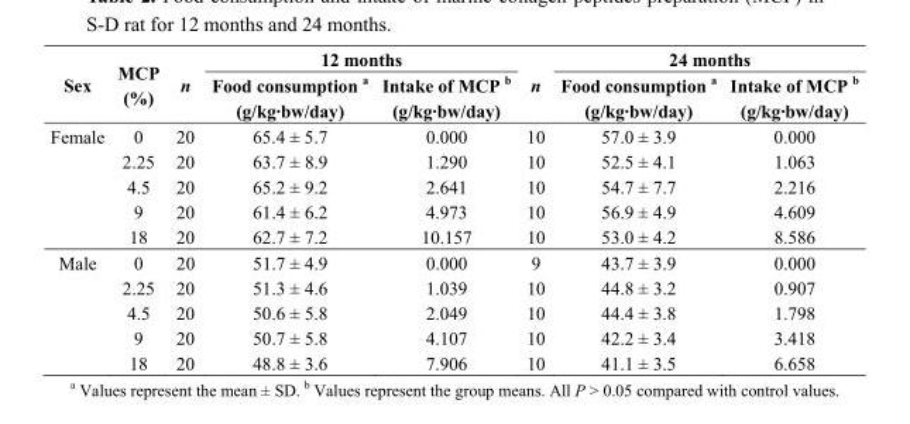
<table><thead><tr><td rowspan="2">Sex</td><td rowspan="2">MCP (%)</td><td rowspan="2">n</td><td colspan="2">12 months</td><td rowspan="2">n</td><td colspan="2">24 months</td></tr><tr><td>Food consumption <sup>a</sup> (g/kg·bw/day)</td><td>Intake of MCP <sup>b</sup> (g/kg·bw/day)</td><td>Food consumption <sup>a</sup> (g/kg·bw/day)</td><td>Intake of MCP <sup>b</sup> (g/kg·bw/day)</td></tr></thead><tbody><tr><td rowspan="5">Female</td><td>0</td><td>20</td><td>65.4 ± 5.7</td><td>0.000</td><td>10</td><td>57.0 ± 3.9</td><td>0.000</td></tr><tr><td>2.25</td><td>20</td><td>63.7 ± 8.9</td><td>1.290</td><td>10</td><td>52.5 ± 4.1</td><td>1.063</td></tr><tr><td>4.5</td><td>20</td><td>65.2 ± 9.2</td><td>2.641</td><td>10</td><td>54.7 ± 7.7</td><td>2.216</td></tr><tr><td>9</td><td>20</td><td>61.4 ± 6.2</td><td>4.973</td><td>10</td><td>56.9 ± 4.9</td><td>4.609</td></tr><tr><td>18</td><td>20</td><td>62.7 ± 7.2</td><td>10.157</td><td>10</td><td>53.0 ± 4.2</td><td>8.586</td></tr><tr><td rowspan="5">Male</td><td>0</td><td>20</td><td>51.7 ± 4.9</td><td>0.000</td><td>9</td><td>43.7 ± 3.9</td><td>0.000</td></tr><tr><td>2.25</td><td>20</td><td>51.3 ± 4.6</td><td>1.039</td><td>10</td><td>44.8 ± 3.2</td><td>0.907</td></tr><tr><td>4.5</td><td>20</td><td>50.6 ± 5.8</td><td>2.049</td><td>10</td><td>44.4 ± 3.8</td><td>1.798</td></tr><tr><td>9</td><td>20</td><td>50.7 ± 5.8</td><td>4.107</td><td>10</td><td>42.2 ± 3.4</td><td>3.418</td></tr><tr><td>18</td><td>20</td><td>48.8 ± 3.6</td><td>7.906</td><td>10</td><td>41.1 ± 3.5</td><td>6.658</td></tr></tbody></table>